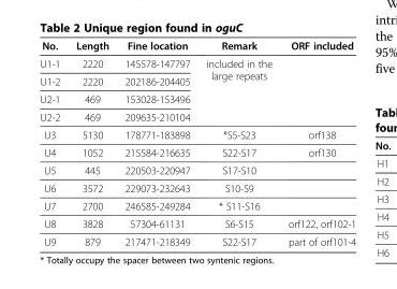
<table><thead><tr><td>No.</td><td>Length</td><td>Fine location</td><td>Remark</td><td>ORF included</td></tr></thead><tbody><tr><td>U1-1</td><td>2220</td><td>145578-147797</td><td rowspan="4">included in the large repeats</td><td rowspan="4"></td></tr><tr><td>U1-2</td><td>2220</td><td>202186-204405</td></tr><tr><td>U2-1</td><td>469</td><td>153028-153496</td></tr><tr><td>U2-2</td><td>469</td><td>209635-210104</td></tr><tr><td>U3</td><td>5130</td><td>178771-183898</td><td>*S5-S23</td><td>orf138</td></tr><tr><td>U4</td><td>1052</td><td>215584-216635</td><td>S22-S17</td><td>orf130</td></tr><tr><td>U5</td><td>445</td><td>220503-220947</td><td>S17-S10</td><td></td></tr><tr><td>U6</td><td>3572</td><td>229073-232643</td><td>S10-S9</td><td></td></tr><tr><td>U7</td><td>2700</td><td>246585-249284</td><td>* S11-S16</td><td></td></tr><tr><td>U8</td><td>3828</td><td>57304-61131</td><td>S6-S15</td><td>orf122, orf102-1</td></tr><tr><td>U9</td><td>879</td><td>217471-218349</td><td>S22-S17</td><td>part of orf101-4</td></tr></tbody></table>